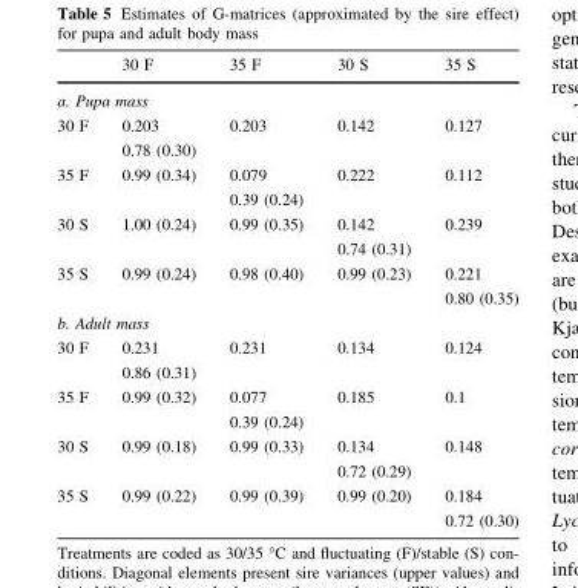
<table><thead><tr><td></td><td>30 F</td><td>35 F</td><td>30 S</td><td>35 S</td></tr></thead><tbody><tr><td colspan="5">a. Pupa mass</td></tr><tr><td rowspan="2">30 F</td><td>0.203</td><td>0.203</td><td>0.142</td><td>0.127</td></tr><tr><td>0.78 (0.30)</td><td></td><td></td><td></td></tr><tr><td rowspan="2">35 F</td><td>0.99 (0.34)</td><td>0.079</td><td>0.222</td><td>0.112</td></tr><tr><td></td><td>0.39 (0.24)</td><td></td><td></td></tr><tr><td rowspan="2">30 S</td><td>1.00 (0.24)</td><td>0.99 (0.35)</td><td>0.142</td><td>0.239</td></tr><tr><td></td><td></td><td>0.74 (0.31)</td><td></td></tr><tr><td rowspan="2">35 S</td><td>0.99 (0.24)</td><td>0.98 (0.40)</td><td>0.99 (0.23)</td><td>0.221</td></tr><tr><td></td><td></td><td></td><td>0.80 (0.35)</td></tr><tr><td colspan="5">b. Adult mass</td></tr><tr><td rowspan="2">30 F</td><td>0.231</td><td>0.231</td><td>0.134</td><td>0.124</td></tr><tr><td>0.86 (0.31)</td><td></td><td></td><td></td></tr><tr><td rowspan="2">35 F</td><td>0.99 (0.32)</td><td>0.077</td><td>0.185</td><td>0.1</td></tr><tr><td></td><td>0.39 (0.24)</td><td></td><td></td></tr><tr><td rowspan="2">30 S</td><td>0.99 (0.18)</td><td>0.99 (0.33)</td><td>0.134</td><td>0.148</td></tr><tr><td></td><td></td><td>0.72 (0.29)</td><td></td></tr><tr><td rowspan="2">35 S</td><td>0.99 (0.22)</td><td>0.99 (0.39)</td><td>0.99 (0.20)</td><td>0.184</td></tr><tr><td></td><td></td><td></td><td>0.72 (0.30)</td></tr></tbody></table>